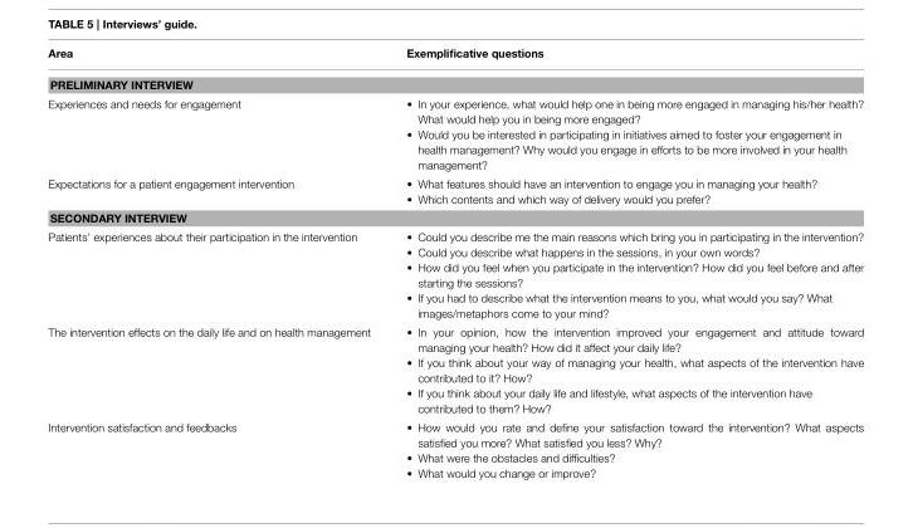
<table><thead><tr><td>Area</td><td>Exemplificative questions</td></tr></thead><tbody><tr><td colspan="2">PRELIMINARY INTERVIEW</td></tr><tr><td>Experiences and needs for engagement</td><td>• In your experience, what would help one in being more engaged in managing his/her health? What would help you in being more engaged? • Would you be interested in participating in initiatives aimed to foster your engagement in health management? Why would you engage in efforts to be more involved in your health management?</td></tr><tr><td>Expectations for a patient engagement intervention</td><td>• What features should have an intervention to engage you in managing your health? • Which contents and which way of delivery would you prefer?</td></tr><tr><td colspan="2">SECONDARY INTERVIEW</td></tr><tr><td>Patients’ experiences about their participation in the intervention</td><td>• Could you describe me the main reasons which bring you in participating in the intervention? • Could you describe what happens in the sessions, in your own words? • How did you feel when you participate in the intervention? How did you feel before and after starting the sessions? • If you had to describe what the intervention means to you, what would you say? What images/metaphors come to your mind?</td></tr><tr><td>The intervention effects on the daily life and on health management</td><td>• In your opinion, how the intervention improved your engagement and attitude toward managing your health? How did it affect your daily life? • If you think about your way of managing your health, what aspects of the intervention have contributed to it? How? • If you think about your daily life and lifestyle, what aspects of the intervention have contributed to them? How?</td></tr><tr><td>Intervention satisfaction and feedbacks</td><td>• How would you rate and define your satisfaction toward the intervention? What aspects satisfied you more? What satisfied you less? Why? • What were the obstacles and difficulties? • What would you change or improve?</td></tr></tbody></table>